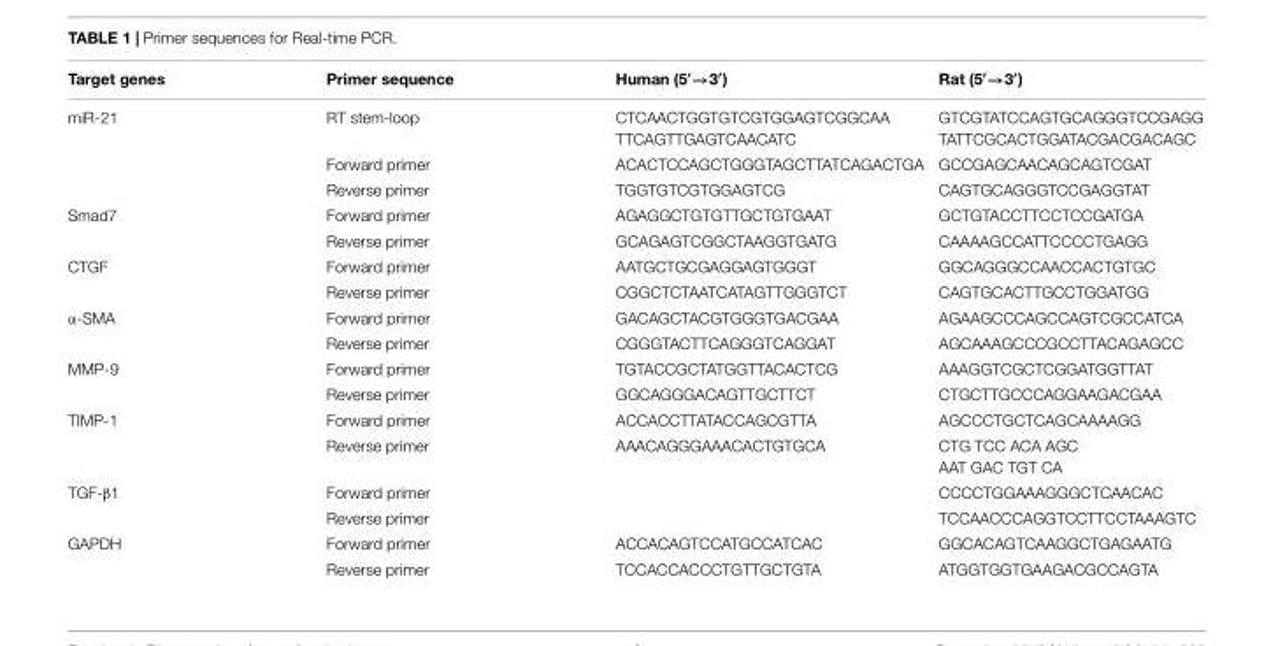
<table><thead><tr><td>Target genes</td><td>Primer sequence</td><td>Human (5′→3′)</td><td>Rat (5′→3′)</td></tr></thead><tbody><tr><td rowspan="3">miR-21</td><td>RT stem-loop</td><td>CTCAACTGGTGTCGTGGAGTCGGCAA TTCAGTTGAGTCAACATC</td><td>GTCGTATCCAGTGCAGGGTCCGAGG TATTCGCACTGGATACGACGACAGC</td></tr><tr><td>Forward primer</td><td>ACACTCCAGCTGGGTAGCTTATCAGACTGA</td><td>GCCGAGCAACAGCAGTCGAT</td></tr><tr><td>Reverse primer</td><td>TGGTGTCGTGGAGTCG</td><td>CAGTGCAGGGTCCGAGGTAT</td></tr><tr><td rowspan="2">Smad7</td><td>Forward primer</td><td>AGAGGCTGTGTTGCTGTGAAT</td><td>GCTGTACCTTCCTCCGATGA</td></tr><tr><td>Reverse primer</td><td>GCAGAGTCGGCTAAGGTGATG</td><td>CAAAAGCCATTCCCCTGAGG</td></tr><tr><td rowspan="2">CTGF</td><td>Forward primer</td><td>AATGCTGCGAGGAGTGGGT</td><td>GGCAGGGCCAACCACTGTGC</td></tr><tr><td>Reverse primer</td><td>CGGCTCTAATCATAGTTGGGTCT</td><td>CAGTGCACTTGCCTGGATGG</td></tr><tr><td rowspan="2">α-SMA</td><td>Forward primer</td><td>GACAGCTACGTGGGTGACGAA</td><td>AGAAGCCCAGCCAGTCGCCATCA</td></tr><tr><td>Reverse primer</td><td>CGGGTACTTCAGGGTCAGGAT</td><td>AGCAAAGCCCGCCTTACAGAGCC</td></tr><tr><td rowspan="2">MMP-9</td><td>Forward primer</td><td>TGTACCGCTATGGTTACACTCG</td><td>AAAGGTCGCTCGGATGGTTAT</td></tr><tr><td>Reverse primer</td><td>GGCAGGGACAGTTGCTTCT</td><td>CTGCTTGCCCAGGAAGACGAA</td></tr><tr><td rowspan="2">TIMP-1</td><td>Forward primer</td><td>ACCACCTTATACCAGCGTTA</td><td>AGCCCTGCTCAGCAAAAGG</td></tr><tr><td>Reverse primer</td><td>AAACAGGGAAACACTGTGCA</td><td>CTG TCC ACA AGC AAT GAC TGT CA</td></tr><tr><td rowspan="2">TGF-β1</td><td>Forward primer</td><td></td><td>CCCCTGGAAAGGGCTCAACAC</td></tr><tr><td>Reverse primer</td><td></td><td>TCCAACCCAGGTCCTTCCTAAAGTC</td></tr><tr><td rowspan="2">GAPDH</td><td>Forward primer</td><td>ACCACAGTCCATGCCATCAC</td><td>GGCACAGTCAAGGCTGAGAATG</td></tr><tr><td>Reverse primer</td><td>TCCACCACCCTGTTGCTGTA</td><td>ATGGTGGTGAAGACGCCAGTA</td></tr></tbody></table>